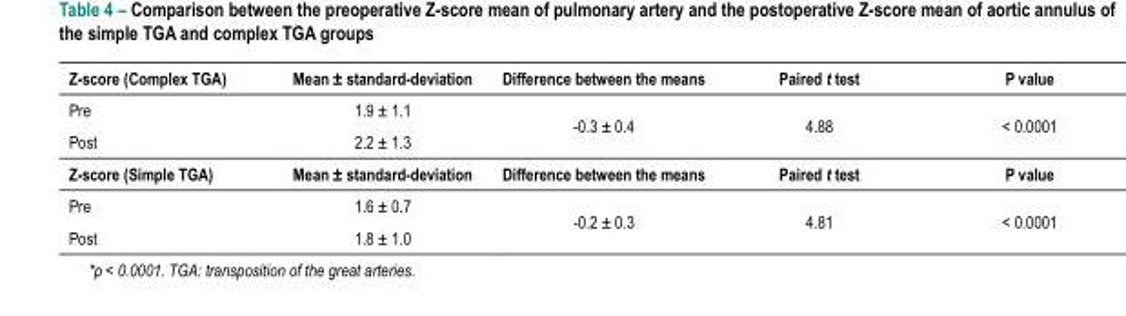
<table><thead><tr><td>Z-score (Complex TGA)</td><td>Mean ± standard-deviation</td><td>Difference between the means</td><td>Paired t test</td><td>P value</td></tr></thead><tbody><tr><td>Pre</td><td>1.9 ± 1.1</td><td rowspan="2">-0.3 ± 0.4</td><td rowspan="2">4.88</td><td rowspan="2">&lt; 0.0001</td></tr><tr><td>Post</td><td>2.2 ± 1.3</td></tr><tr><td>Z-score (Simple TGA)</td><td>Mean ± standard-deviation</td><td>Difference between the means</td><td>Paired t test</td><td>P value</td></tr><tr><td>Pre</td><td>1.6 ± 0.7</td><td rowspan="2">-0.2 ± 0.3</td><td rowspan="2">4.81</td><td rowspan="2">&lt; 0.0001</td></tr><tr><td>Post</td><td>1.8 ± 1.0</td></tr></tbody></table>